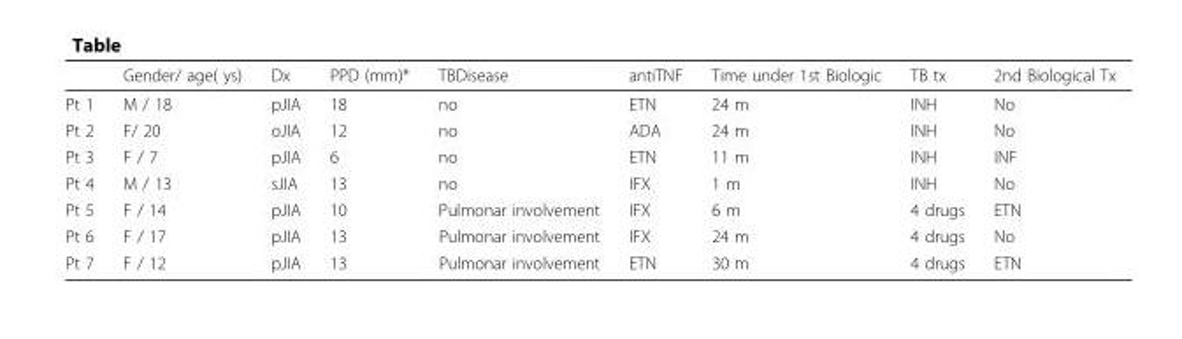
<table><thead><tr><td></td><td>Gender/ age( ys)</td><td>Dx</td><td>PPD (mm)*</td><td>TBDisease</td><td>antiTNF</td><td>Time under 1st Biologic</td><td>TB tx</td><td>2nd Biological Tx</td></tr></thead><tbody><tr><td>Pt 1</td><td>M / 18</td><td>pJIA</td><td>18</td><td>no</td><td>ETN</td><td>24 m</td><td>INH</td><td>No</td></tr><tr><td>Pt 2</td><td>F/ 20</td><td>oJIA</td><td>12</td><td>no</td><td>ADA</td><td>24 m</td><td>INH</td><td>No</td></tr><tr><td>Pt 3</td><td>F / 7</td><td>pJIA</td><td>6</td><td>no</td><td>ETN</td><td>11 m</td><td>INH</td><td>INF</td></tr><tr><td>Pt 4</td><td>M / 13</td><td>sJIA</td><td>13</td><td>no</td><td>IFX</td><td>1 m</td><td>INH</td><td>No</td></tr><tr><td>Pt 5</td><td>F / 14</td><td>pJIA</td><td>10</td><td>Pulmonar involvement</td><td>IFX</td><td>6 m</td><td>4 drugs</td><td>ETN</td></tr><tr><td>Pt 6</td><td>F / 17</td><td>pJIA</td><td>13</td><td>Pulmonar involvement</td><td>IFX</td><td>24 m</td><td>4 drugs</td><td>No</td></tr><tr><td>Pt 7</td><td>F / 12</td><td>pJIA</td><td>13</td><td>Pulmonar involvement</td><td>ETN</td><td>30 m</td><td>4 drugs</td><td>ETN</td></tr></tbody></table>